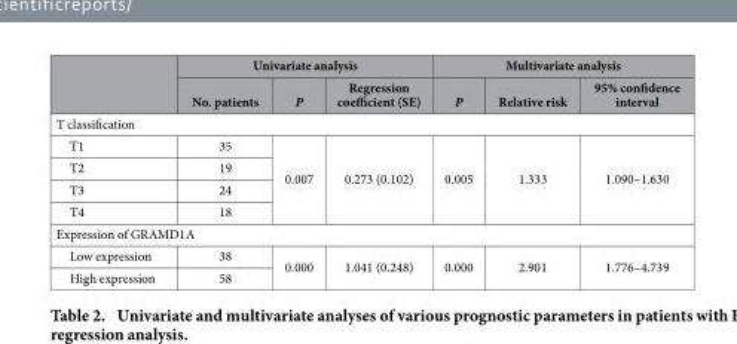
<table><thead><tr><td rowspan="2"></td><td colspan="3">Univariate analysis</td><td colspan="3">Multivariate analysis</td></tr><tr><td>No. patients</td><td>P</td><td>Regression coefficient (SE)</td><td>P</td><td>Relative risk</td><td>95% confidence interval</td></tr></thead><tbody><tr><td colspan="7">T classification</td></tr><tr><td>T1</td><td>35</td><td rowspan="4">0.007</td><td rowspan="4">0.273 (0.102)</td><td rowspan="4">0.005</td><td rowspan="4">1.333</td><td rowspan="4">1.090–1.630</td></tr><tr><td>T2</td><td>19</td></tr><tr><td>T3</td><td>24</td></tr><tr><td>T4</td><td>18</td></tr><tr><td colspan="7">Expression of GRAMD1A</td></tr><tr><td>Low expression</td><td>38</td><td rowspan="2">0.000</td><td rowspan="2">1.041 (0.248)</td><td rowspan="2">0.000</td><td rowspan="2">2.901</td><td rowspan="2">1.776–4.739</td></tr><tr><td>High expression</td><td>58</td></tr></tbody></table>